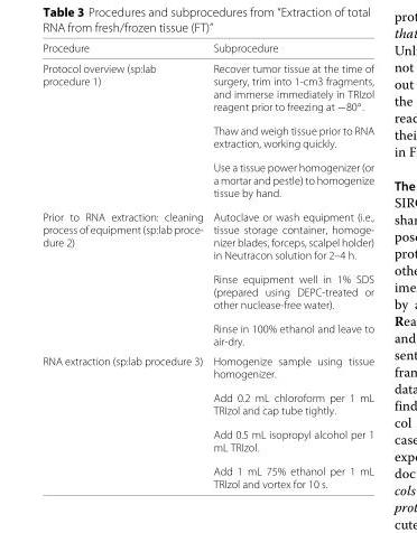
<table><thead><tr><td>Procedure</td><td>Subprocedure</td></tr></thead><tbody><tr><td rowspan="3">Protocol overview (sp:lab procedure 1)</td><td>Recover tumor tissue at the time of surgery, trim into 1-cm3 fragments, and immerse immediately in TRIzol reagent prior to freezing at −80◦.</td></tr><tr><td>Thaw and weigh tissue prior to RNA extraction, working quickly.</td></tr><tr><td>Use a tissue power homogenizer (or a mortar and pestle) to homogenize tissue by hand.</td></tr><tr><td rowspan="3">Prior to RNA extraction: cleaning process of equipment (sp:lab proce- dure 2)</td><td>Autoclave or wash equipment (i.e., tissue storage container, homoge- nizer blades, forceps, scalpel holder) in Neutracon solution for 2–4 h.</td></tr><tr><td>Rinse equipment well in 1% SDS (prepared using DEPC-treated or other nuclease-free water).</td></tr><tr><td>Rinse in 100% ethanol and leave to air-dry.</td></tr><tr><td rowspan="4">RNA extraction (sp:lab procedure 3)</td><td>Homogenize sample using tissue homogenizer.</td></tr><tr><td>Add 0.2 mL chloroform per 1 mL TRIzol and cap tube tightly.</td></tr><tr><td>Add 0.5 mL isopropyl alcohol per 1 mL TRIzol.</td></tr><tr><td>Add 1 mL 75% ethanol per 1 mL TRIzol and vortex for 10 s.</td></tr></tbody></table>